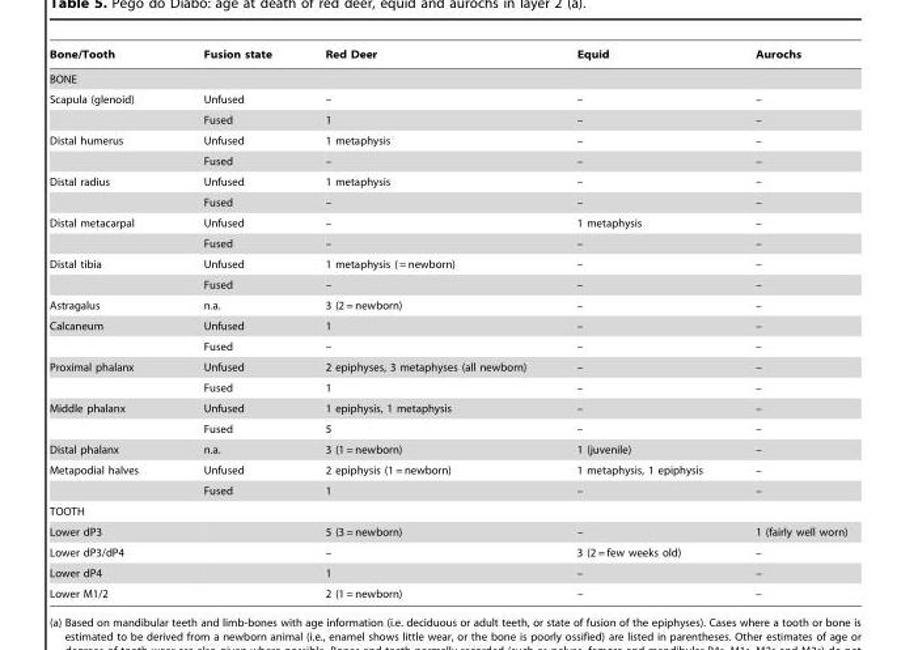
<table><thead><tr><td>Bone/Tooth</td><td>Fusion state</td><td>Red Deer</td><td>Equid</td><td>Aurochs</td></tr></thead><tbody><tr><td colspan="5">BONE</td></tr><tr><td rowspan="2">Scapula (glenoid)</td><td>Unfused</td><td>–</td><td>–</td><td>–</td></tr><tr><td>Fused</td><td>1</td><td>–</td><td>–</td></tr><tr><td rowspan="2">Distal humerus</td><td>Unfused</td><td>1 metaphysis</td><td>–</td><td>–</td></tr><tr><td>Fused</td><td>–</td><td>–</td><td>–</td></tr><tr><td rowspan="2">Distal radius</td><td>Unfused</td><td>1 metaphysis</td><td>–</td><td>–</td></tr><tr><td>Fused</td><td>–</td><td>–</td><td>–</td></tr><tr><td rowspan="2">Distal metacarpal</td><td>Unfused</td><td>–</td><td>1 metaphysis</td><td>–</td></tr><tr><td>Fused</td><td>–</td><td>–</td><td>–</td></tr><tr><td rowspan="2">Distal tibia</td><td>Unfused</td><td>1 metaphysis ( = newborn)</td><td>–</td><td>–</td></tr><tr><td>Fused</td><td>–</td><td>–</td><td>–</td></tr><tr><td>Astragalus</td><td>n.a.</td><td>3 (2 = newborn)</td><td>–</td><td>–</td></tr><tr><td rowspan="2">Calcaneum</td><td>Unfused</td><td>1</td><td>–</td><td>–</td></tr><tr><td>Fused</td><td>–</td><td>–</td><td>–</td></tr><tr><td rowspan="2">Proximal phalanx</td><td>Unfused</td><td>2 epiphyses, 3 metaphyses (all newborn)</td><td>–</td><td>–</td></tr><tr><td>Fused</td><td>1</td><td>–</td><td>–</td></tr><tr><td rowspan="2">Middle phalanx</td><td>Unfused</td><td>1 epiphysis, 1 metaphysis</td><td>–</td><td>–</td></tr><tr><td>Fused</td><td>5</td><td>–</td><td>–</td></tr><tr><td>Distal phalanx</td><td>n.a.</td><td>3 (1 = newborn)</td><td>1 (juvenile)</td><td>–</td></tr><tr><td rowspan="2">Metapodial halves</td><td>Unfused</td><td>2 epiphysis (1 = newborn)</td><td>1 metaphysis, 1 epiphysis</td><td>–</td></tr><tr><td>Fused</td><td>1</td><td>–</td><td>–</td></tr><tr><td colspan="5">TOOTH</td></tr><tr><td>Lower dP3</td><td></td><td>5 (3 = newborn)</td><td>–</td><td>1 (fairly well worn)</td></tr><tr><td>Lower dP3/dP4</td><td></td><td>–</td><td>3 (2 = few weeks old)</td><td>–</td></tr><tr><td>Lower dP4</td><td></td><td>1</td><td>–</td><td>–</td></tr><tr><td>Lower M1/2</td><td></td><td>2 (1 = newborn)</td><td>–</td><td>–</td></tr></tbody></table>